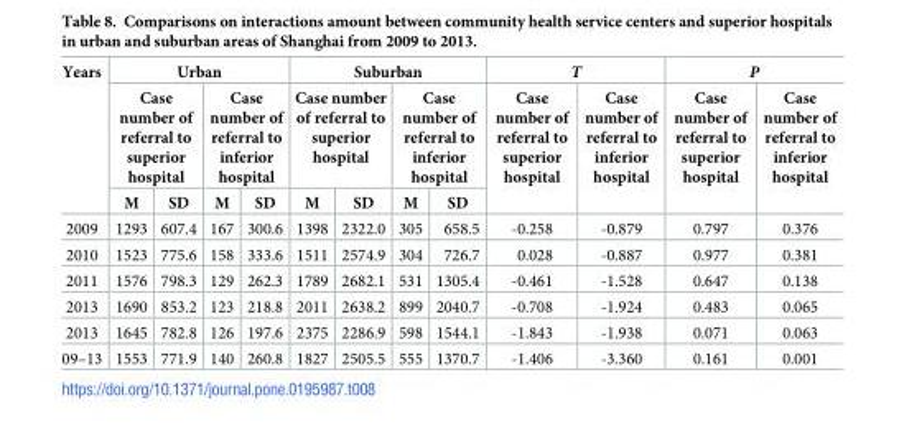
<table><thead><tr><td rowspan="3">Years</td><td colspan="4">Urban</td><td colspan="4">Suburban</td><td colspan="2">T</td><td colspan="2">P</td></tr><tr><td colspan="2">Case number of referral to superior hospital</td><td colspan="2">Case number of referral to inferior hospital</td><td colspan="2">Case number of referral to superior hospital</td><td colspan="2">Case number of referral to inferior hospital</td><td rowspan="2">Case number of referral to superior hospital</td><td rowspan="2">Case number of referral to inferior hospital</td><td rowspan="2">Case number of referral to superior hospital</td><td rowspan="2">Case number of referral to inferior hospital</td></tr><tr><td>M</td><td>SD</td><td>M</td><td>SD</td><td>M</td><td>SD</td><td>M</td><td>SD</td></tr></thead><tbody><tr><td>2009</td><td>1293</td><td>607.4</td><td>167</td><td>300.6</td><td>1398</td><td>2322.0</td><td>305</td><td>658.5</td><td>-0.258</td><td>-0.879</td><td>0.797</td><td>0.376</td></tr><tr><td>2010</td><td>1523</td><td>775.6</td><td>158</td><td>333.6</td><td>1511</td><td>2574.9</td><td>304</td><td>726.7</td><td>0.028</td><td>-0.887</td><td>0.977</td><td>0.381</td></tr><tr><td>2011</td><td>1576</td><td>798.3</td><td>129</td><td>262.3</td><td>1789</td><td>2682.1</td><td>531</td><td>1305.4</td><td>-0.461</td><td>-1.528</td><td>0.647</td><td>0.138</td></tr><tr><td>2013</td><td>1690</td><td>853.2</td><td>123</td><td>218.8</td><td>2011</td><td>2638.2</td><td>899</td><td>2040.7</td><td>-0.708</td><td>-1.924</td><td>0.483</td><td>0.065</td></tr><tr><td>2013</td><td>1645</td><td>782.8</td><td>126</td><td>197.6</td><td>2375</td><td>2286.9</td><td>598</td><td>1544.1</td><td>-1.843</td><td>-1.938</td><td>0.071</td><td>0.063</td></tr><tr><td>09–13</td><td>1553</td><td>771.9</td><td>140</td><td>260.8</td><td>1827</td><td>2505.5</td><td>555</td><td>1370.7</td><td>-1.406</td><td>-3.360</td><td>0.161</td><td>0.001</td></tr></tbody></table>